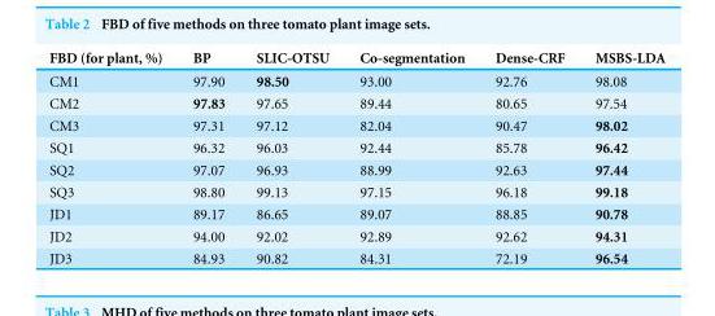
<table><thead><tr><td>FBD (for plant, %)</td><td>BP</td><td>SLIC-OTSU</td><td>Co-segmentation</td><td>Dense-CRF</td><td>MSBS-LDA</td></tr></thead><tbody><tr><td>CM1</td><td>97.90</td><td>98.50</td><td>93.00</td><td>92.76</td><td>98.08</td></tr><tr><td>CM2</td><td>97.83</td><td>97.65</td><td>89.44</td><td>80.65</td><td>97.54</td></tr><tr><td>CM3</td><td>97.31</td><td>97.12</td><td>82.04</td><td>90.47</td><td>98.02</td></tr><tr><td>SQ1</td><td>96.32</td><td>96.03</td><td>92.44</td><td>85.78</td><td>96.42</td></tr><tr><td>SQ2</td><td>97.07</td><td>96.93</td><td>88.99</td><td>92.63</td><td>97.44</td></tr><tr><td>SQ3</td><td>98.80</td><td>99.13</td><td>97.15</td><td>96.18</td><td>99.18</td></tr><tr><td>JD1</td><td>89.17</td><td>86.65</td><td>89.07</td><td>88.85</td><td>90.78</td></tr><tr><td>JD2</td><td>94.00</td><td>92.02</td><td>92.89</td><td>92.62</td><td>94.31</td></tr><tr><td>JD3</td><td>84.93</td><td>90.82</td><td>84.31</td><td>72.19</td><td>96.54</td></tr></tbody></table>